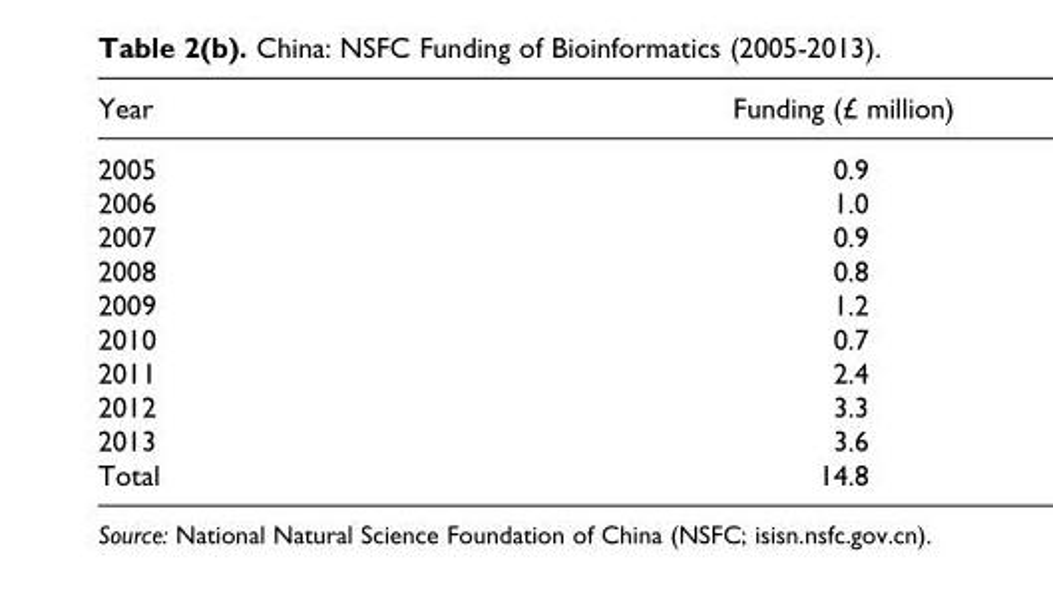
<table><thead><tr><td>Year</td><td>Funding (£ million)</td></tr></thead><tbody><tr><td>2005</td><td>0.9</td></tr><tr><td>2006</td><td>1.0</td></tr><tr><td>2007</td><td>0.9</td></tr><tr><td>2008</td><td>0.8</td></tr><tr><td>2009</td><td>1.2</td></tr><tr><td>2010</td><td>0.7</td></tr><tr><td>2011</td><td>2.4</td></tr><tr><td>2012</td><td>3.3</td></tr><tr><td>2013</td><td>3.6</td></tr><tr><td>Total</td><td>14.8</td></tr></tbody></table>